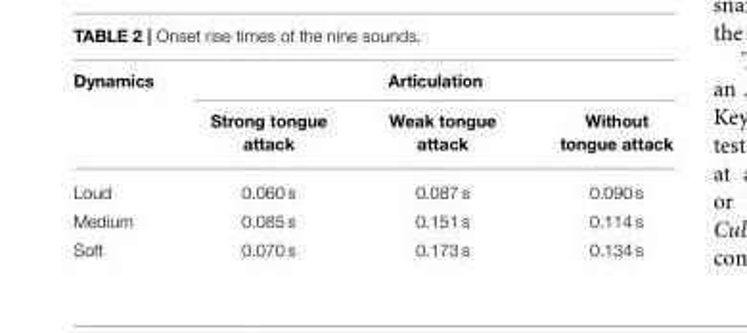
<table><thead><tr><td rowspan="2">Dynamics</td><td colspan="3">Articulation</td></tr><tr><td>Strong tongue attack</td><td>Weak tongue attack</td><td>Without tongue attack</td></tr></thead><tbody><tr><td>Loud</td><td>0.060 s</td><td>0.087 s</td><td>0.090 s</td></tr><tr><td>Medium</td><td>0.085 s</td><td>0.151 s</td><td>0.114 s</td></tr><tr><td>Soft</td><td>0.070 s</td><td>0.173 s</td><td>0.134 s</td></tr></tbody></table>